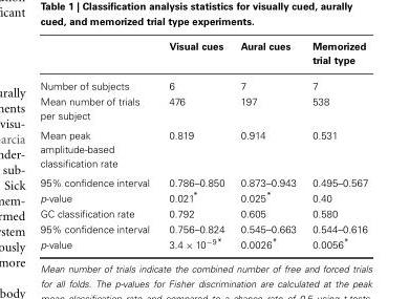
<table><thead><tr><td></td><td>Visual cues</td><td>Aural cues</td><td>Memorized trial type</td></tr></thead><tbody><tr><td>Number of subjects</td><td>6</td><td>7</td><td>7</td></tr><tr><td>Mean number of trials per subject</td><td>476</td><td>197</td><td>538</td></tr><tr><td>Mean peak amplitude-based classification rate</td><td>0.819</td><td>0.914</td><td>0.531</td></tr><tr><td>95% confidence interval</td><td>0.786–0.850</td><td>0.873–0.943</td><td>0.495–0.567</td></tr><tr><td>p-value</td><td>0.021*</td><td>0.025*</td><td>0.40</td></tr><tr><td>GC classification rate</td><td>0.792</td><td>0.605</td><td>0.580</td></tr><tr><td>95% confidence interval</td><td>0.756–0.824</td><td>0.545–0.663</td><td>0.544–0.616</td></tr><tr><td>p-value</td><td>3.4 × 10<sup>−9*</sup></td><td>0.0026*</td><td>0.0056*</td></tr></tbody></table>